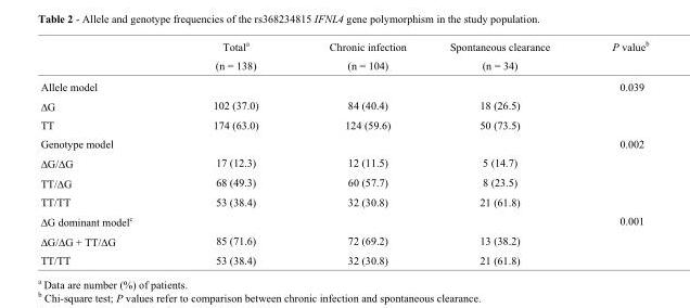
<table><thead><tr><td rowspan="2"></td><td rowspan="2">Total<sup>a</sup> (n = 138)</td><td rowspan="2">Chronic infection (n = 104)</td><td rowspan="2">Spontaneous clearance (n = 34)</td><td rowspan="2">P value<sup>b</sup></td></tr><tr></tr></thead><tbody><tr><td>Allele model</td><td></td><td></td><td></td><td>0.039</td></tr><tr><td>ΔG</td><td>102 (37.0)</td><td>84 (40.4)</td><td>18 (26.5)</td><td></td></tr><tr><td>TT</td><td>174 (63.0)</td><td>124 (59.6)</td><td>50 (73.5)</td><td></td></tr><tr><td>Genotype model</td><td></td><td></td><td></td><td>0.002</td></tr><tr><td>ΔG/ΔG</td><td>17 (12.3)</td><td>12 (11.5)</td><td>5 (14.7)</td><td></td></tr><tr><td>TT/ΔG</td><td>68 (49.3)</td><td>60 (57.7)</td><td>8 (23.5)</td><td></td></tr><tr><td>TT/TT</td><td>53 (38.4)</td><td>32 (30.8)</td><td>21 (61.8)</td><td></td></tr><tr><td>ΔG dominant model<sup>c</sup></td><td></td><td></td><td></td><td>0.001</td></tr><tr><td>ΔG/ΔG + TT/ΔG</td><td>85 (71.6)</td><td>72 (69.2)</td><td>13 (38.2)</td><td></td></tr><tr><td>TT/TT</td><td>53 (38.4)</td><td>32 (30.8)</td><td>21 (61.8)</td><td></td></tr></tbody></table>